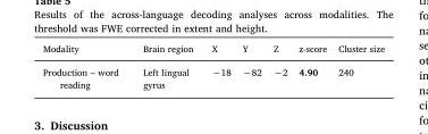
<table><thead><tr><td>Modality</td><td>Brain region</td><td>X</td><td>Y</td><td>Z</td><td>z-score</td><td>Cluster size</td></tr></thead><tbody><tr><td>Production – word reading</td><td>Left lingual gyrus</td><td>−18</td><td>−82</td><td>−2</td><td>4.90</td><td>240</td></tr></tbody></table>